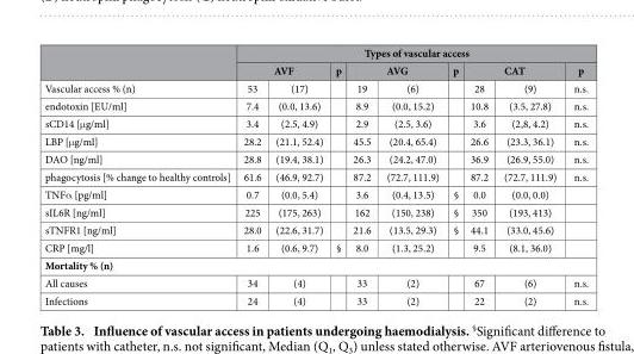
<table><thead><tr><td rowspan="3">Vascular access % (n)</td><td colspan="9">Types of vascular access</td></tr><tr><td colspan="2">AVF</td><td rowspan="2">p</td><td colspan="2">AVG</td><td rowspan="2">p</td><td colspan="2">CAT</td><td rowspan="2">p n.s.</td></tr><tr><td>53</td><td>(17)</td><td>19</td><td>(6)</td><td>28</td><td>(9)</td></tr></thead><tbody><tr><td>endotoxin [EU/ml]</td><td>7.4</td><td>(0.0, 13.6)</td><td></td><td>8.9</td><td>(0.0, 15.2)</td><td></td><td>10.8</td><td>(3.5, 27.8)</td><td>n.s.</td></tr><tr><td>sCD14 [μ g/ml]</td><td>3.4</td><td>(2.5, 4.9)</td><td></td><td>2.9</td><td>(2.5, 3.6)</td><td></td><td>3.6</td><td>(2,8, 4.2)</td><td>n.s.</td></tr><tr><td>LBP [μ g/ml]</td><td>28.2</td><td>(21.1, 52.4)</td><td></td><td>45.5</td><td>(20.4, 65.4)</td><td></td><td>26.6</td><td>(23.3, 36.1)</td><td>n.s.</td></tr><tr><td>DAO [ng/ml]</td><td>28.8</td><td>(19.4, 38.1)</td><td></td><td>26.3</td><td>(24.2, 47.0)</td><td></td><td>36.9</td><td>(26.9, 55.0)</td><td>n.s.</td></tr><tr><td>phagocytosis [% change to healthy controls]</td><td>61.6</td><td>(46.9, 92.7)</td><td></td><td>87.2</td><td>(72.7, 111.9)</td><td></td><td>87.2</td><td>(72.7, 111.9)</td><td>n.s.</td></tr><tr><td>TNFα [pg/ml]</td><td>0.7</td><td>(0.0, 5.4)</td><td></td><td>3.6</td><td>(0.4, 13.5)</td><td>§</td><td>0.0</td><td>(0.0, 0.0)</td><td></td></tr><tr><td>sIL6R [ng/ml]</td><td>225</td><td>(175, 263)</td><td></td><td>162</td><td>(150, 238)</td><td>§</td><td>350</td><td>(193, 413)</td><td></td></tr><tr><td>sTNFR1 [ng/ml]</td><td>28.0</td><td>(22.6, 31.7)</td><td></td><td>21.6</td><td>(13.5, 29.3)</td><td>§</td><td>44.1</td><td>(33.0, 45.6)</td><td></td></tr><tr><td>CRP [mg/l]</td><td>1.6</td><td>(0.6, 9.7)</td><td>§</td><td>8.0</td><td>(1.3, 25.2)</td><td></td><td>9.5</td><td>(8.1, 36.0)</td><td></td></tr><tr><td colspan="10">Mortality % (n)</td></tr><tr><td>All causes</td><td>34</td><td>(4)</td><td></td><td>33</td><td>(2)</td><td></td><td>67</td><td>(6)</td><td>n.s.</td></tr><tr><td>Infections</td><td>24</td><td>(4)</td><td></td><td>33</td><td>(2)</td><td></td><td>22</td><td>(2)</td><td>n.s.</td></tr></tbody></table>